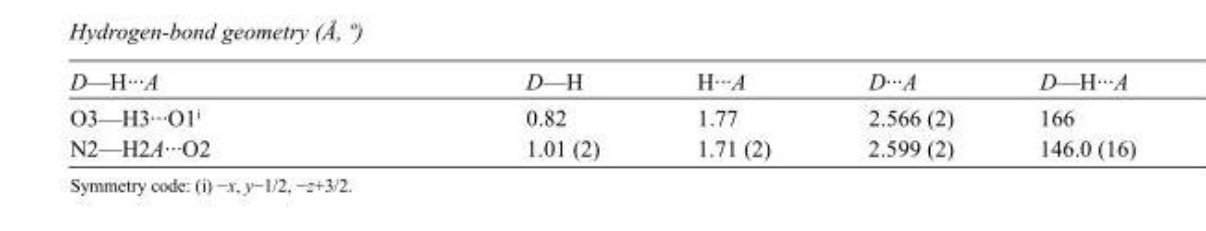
<table><tbody><tr><td>D—H···A</td><td>D—H</td><td>H···A</td><td>D···A</td><td>D—H···A</td></tr><tr><td>O3—H3···O1<sup>i</sup></td><td>0.82</td><td>1.77</td><td>2.566 (2)</td><td>166</td></tr><tr><td>N2—H2A···O2</td><td>1.01 (2)</td><td>1.71 (2)</td><td>2.599 (2)</td><td>146.0 (16)</td></tr></tbody></table>